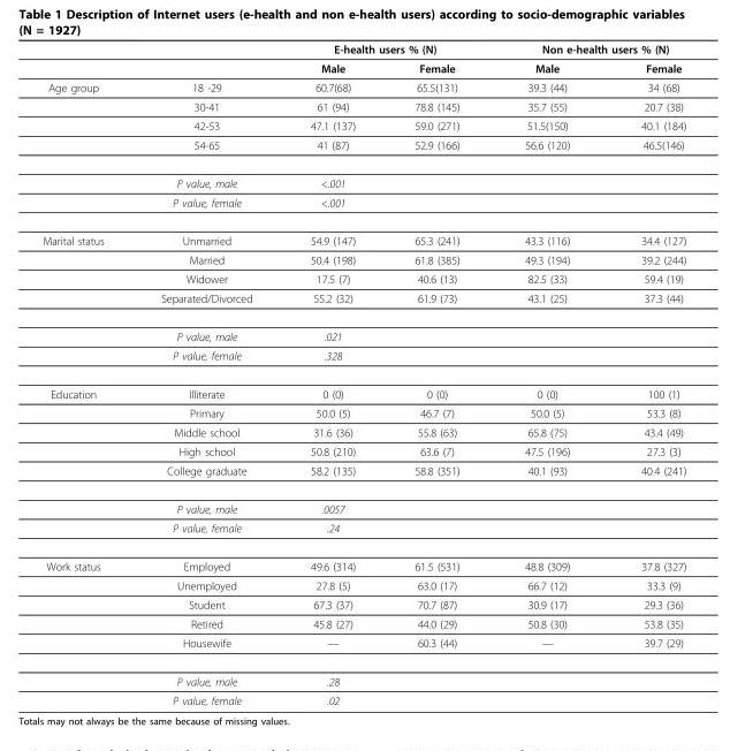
<table><thead><tr><td rowspan="2"></td><td rowspan="2"></td><td colspan="2">E-health users % (N)</td><td colspan="2">Non e-health users % (N)</td></tr><tr><td>Male</td><td>Female</td><td>Male</td><td>Female</td></tr></thead><tbody><tr><td rowspan="6">Age group</td><td>18 -29</td><td>60.7(68)</td><td>65.5(131)</td><td>39.3 (44)</td><td>34 (68)</td></tr><tr><td>30-41</td><td>61 (94)</td><td>78.8 (145)</td><td>35.7 (55)</td><td>20.7 (38)</td></tr><tr><td>42-53</td><td>47.1 (137)</td><td>59.0 (271)</td><td>51.5(150)</td><td>40.1 (184)</td></tr><tr><td>54-65</td><td>41 (87)</td><td>52.9 (166)</td><td>56.6 (120)</td><td>46.5(146)</td></tr><tr><td>P value, male</td><td>&lt;.001</td><td></td><td></td><td></td></tr><tr><td>P value, female</td><td>&lt;.001</td><td></td><td></td><td></td></tr><tr><td rowspan="6">Marital status</td><td>Unmarried</td><td>54.9 (147)</td><td>65.3 (241)</td><td>43.3 (116)</td><td>34.4 (127)</td></tr><tr><td>Married</td><td>50.4 (198)</td><td>61.8 (385)</td><td>49.3 (194)</td><td>39.2 (244)</td></tr><tr><td>Widower</td><td>17.5 (7)</td><td>40.6 (13)</td><td>82.5 (33)</td><td>59.4 (19)</td></tr><tr><td>Separated/Divorced</td><td>55.2 (32)</td><td>61.9 (73)</td><td>43.1 (25)</td><td>37.3 (44)</td></tr><tr><td>P value, male</td><td>.021</td><td></td><td></td><td></td></tr><tr><td>P value, female</td><td>.328</td><td></td><td></td><td></td></tr><tr><td rowspan="7">Education</td><td>Illiterate</td><td>0 (0)</td><td>0 (0)</td><td>0 (0)</td><td>100 (1)</td></tr><tr><td>Primary</td><td>50.0 (5)</td><td>46.7 (7)</td><td>50.0 (5)</td><td>53.3 (8)</td></tr><tr><td>Middle school</td><td>31.6 (36)</td><td>55.8 (63)</td><td>65.8 (75)</td><td>43.4 (49)</td></tr><tr><td>High school</td><td>50.8 (210)</td><td>63.6 (7)</td><td>47.5 (196)</td><td>27.3 (3)</td></tr><tr><td>College graduate</td><td>58.2 (135)</td><td>58.8 (351)</td><td>40.1 (93)</td><td>40.4 (241)</td></tr><tr><td>P value, male</td><td>.0057</td><td></td><td></td><td></td></tr><tr><td>P value, female</td><td>.24</td><td></td><td></td><td></td></tr><tr><td rowspan="7">Work status</td><td>Employed</td><td>49.6 (314)</td><td>61.5 (531)</td><td>48.8 (309)</td><td>37.8 (327)</td></tr><tr><td>Unemployed</td><td>27.8 (5)</td><td>63.0 (17)</td><td>66.7 (12)</td><td>33.3 (9)</td></tr><tr><td>Student</td><td>67.3 (37)</td><td>70.7 (87)</td><td>30.9 (17)</td><td>29.3 (36)</td></tr><tr><td>Retired</td><td>45.8 (27)</td><td>44.0 (29)</td><td>50.8 (30)</td><td>53.8 (35)</td></tr><tr><td>Housewife</td><td>—</td><td>60.3 (44)</td><td>—</td><td>39.7 (29)</td></tr><tr><td>P value, male</td><td>.28</td><td></td><td></td><td></td></tr><tr><td>P value, female</td><td>.02</td><td></td><td></td><td></td></tr></tbody></table>